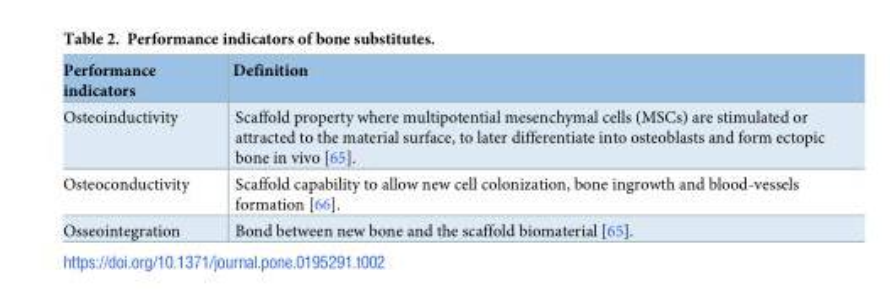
<table><thead><tr><td>Performance indicators</td><td>Definition</td></tr></thead><tbody><tr><td>Osteoinductivity</td><td>Scaffold property where multipotential mesenchymal cells (MSCs) are stimulated or attracted to the material surface, to later differentiate into osteoblasts and form ectopic bone in vivo [65].</td></tr><tr><td>Osteoconductivity</td><td>Scaffold capability to allow new cell colonization, bone ingrowth and blood-vessels formation [66].</td></tr><tr><td>Osseointegration</td><td>Bond between new bone and the scaffold biomaterial [65].</td></tr></tbody></table>